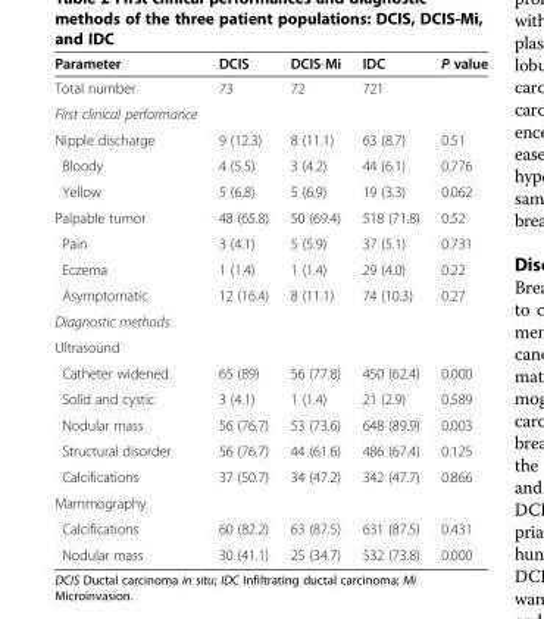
<table><thead><tr><td>Parameter</td><td>DCIS</td><td>DCIS-Mi</td><td>IDC</td><td>P value</td></tr></thead><tbody><tr><td>Total number</td><td>73</td><td>72</td><td>721</td><td></td></tr><tr><td colspan="5">First clinical performance</td></tr><tr><td>Nipple discharge</td><td>9 (12.3)</td><td>8 (11.1)</td><td>63 (8.7)</td><td>0.51</td></tr><tr><td>Bloody</td><td>4 (5.5)</td><td>3 (4.2)</td><td>44 (6.1)</td><td>0.776</td></tr><tr><td>Yellow</td><td>5 (6.8)</td><td>5 (6.9)</td><td>19 (3.3)</td><td>0.062</td></tr><tr><td>Palpable tumor</td><td>48 (65.8)</td><td>50 (69.4)</td><td>518 (71.8)</td><td>0.52</td></tr><tr><td>Pain</td><td>3 (4.1)</td><td>5 (5.9)</td><td>37 (5.1)</td><td>0.731</td></tr><tr><td>Eczema</td><td>1 (1.4)</td><td>1 (1.4)</td><td>29 (4.0)</td><td>0.22</td></tr><tr><td>Asymptomatic</td><td>12 (16.4)</td><td>8 (11.1)</td><td>74 (10.3)</td><td>0.27</td></tr><tr><td colspan="5">Diagnostic methods</td></tr><tr><td colspan="5">Ultrasound</td></tr><tr><td>Catheter widened</td><td>65 (89)</td><td>56 (77.8)</td><td>450 (62.4)</td><td>0.000</td></tr><tr><td>Solid and cystic</td><td>3 (4.1)</td><td>1 (1.4)</td><td>21 (2.9)</td><td>0.589</td></tr><tr><td>Nodular mass</td><td>56 (76.7)</td><td>53 (73.6)</td><td>648 (89.9)</td><td>0.003</td></tr><tr><td>Structural disorder</td><td>56 (76.7)</td><td>44 (61.6)</td><td>486 (67.4)</td><td>0.125</td></tr><tr><td>Calcifications</td><td>37 (50.7)</td><td>34 (47.2)</td><td>342 (47.7)</td><td>0.866</td></tr><tr><td colspan="5">Mammography</td></tr><tr><td>Calcifications</td><td>60 (82.2)</td><td>63 (87.5)</td><td>631 (87.5)</td><td>0.431</td></tr><tr><td>Nodular mass</td><td>30 (41.1)</td><td>25 (34.7)</td><td>532 (73.8)</td><td>0.000</td></tr></tbody></table>